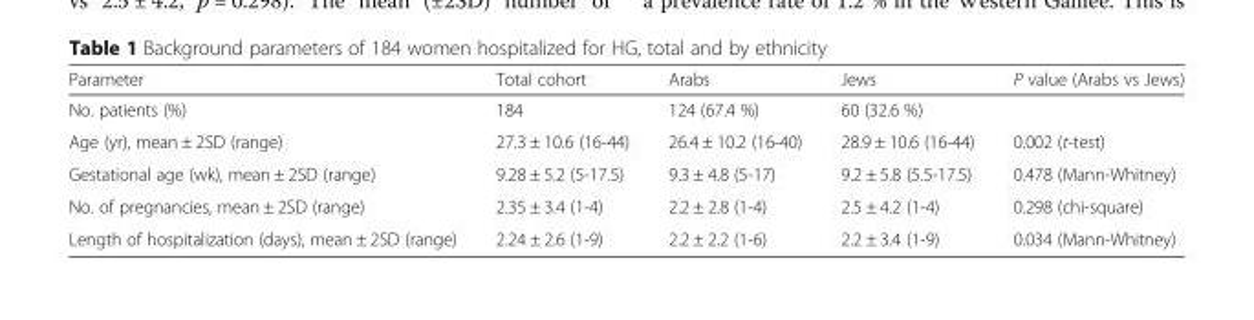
<table><thead><tr><td>Parameter</td><td>Total cohort</td><td>Arabs</td><td>Jews</td><td>P value (Arabs vs Jews)</td></tr></thead><tbody><tr><td>No. patients (%)</td><td>184</td><td>124 (67.4 %)</td><td>60 (32.6 %)</td><td></td></tr><tr><td>Age (yr), mean ± 2SD (range)</td><td>27.3 ± 10.6 (16-44)</td><td>26.4 ± 10.2 (16-40)</td><td>28.9 ± 10.6 (16-44)</td><td>0.002 (t-test)</td></tr><tr><td>Gestational age (wk), mean ± 2SD (range)</td><td>9.28 ± 5.2 (5-17.5)</td><td>9.3 ± 4.8 (5-17)</td><td>9.2 ± 5.8 (5.5-17.5)</td><td>0.478 (Mann-Whitney)</td></tr><tr><td>No. of pregnancies, mean ± 2SD (range)</td><td>2.35 ± 3.4 (1-4)</td><td>2.2 ± 2.8 (1-4)</td><td>2.5 ± 4.2 (1-4)</td><td>0.298 (chi-square)</td></tr><tr><td>Length of hospitalization (days), mean ± 2SD (range)</td><td>2.24 ± 2.6 (1-9)</td><td>2.2 ± 2.2 (1-6)</td><td>2.2 ± 3.4 (1-9)</td><td>0.034 (Mann-Whitney)</td></tr></tbody></table>